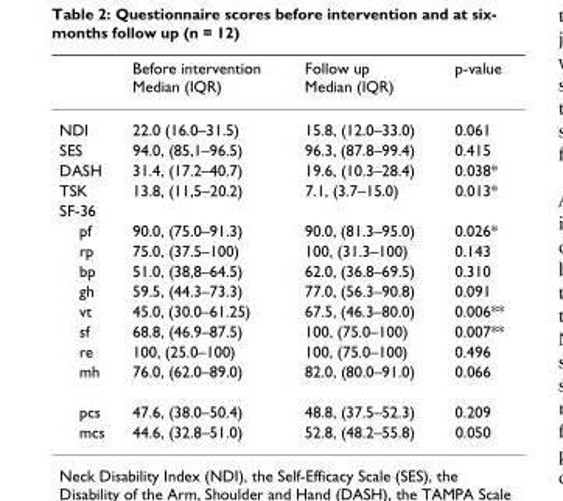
<table><thead><tr><td></td><td>Before intervention Median (IQR)</td><td>Follow up Median (IQR)</td><td>p-value</td></tr></thead><tbody><tr><td>NDI</td><td>22.0 (16.0–31.5)</td><td>15.8, (12.0–33.0)</td><td>0.061</td></tr><tr><td>SES</td><td>94.0, (85,1–96.5)</td><td>96.3, (87.8–99.4)</td><td>0.415</td></tr><tr><td>DASH</td><td>31.4, (17.2–40.7)</td><td>19.6, (10.3–28.4)</td><td>0.038*</td></tr><tr><td>TSK</td><td>13.8, (11,5–20.2)</td><td>7.1, (3.7–15.0)</td><td>0.013*</td></tr><tr><td colspan="4">SF-36</td></tr><tr><td>pf</td><td>90.0, (75.0–91.3)</td><td>90.0, (81.3–95.0)</td><td>0.026*</td></tr><tr><td>rp</td><td>75.0, (37.5–100)</td><td>100, (31.3–100)</td><td>0.143</td></tr><tr><td>bp</td><td>51.0, (38,8–64.5)</td><td>62.0, (36.8–69.5)</td><td>0.310</td></tr><tr><td>gh</td><td>59.5, (44.3–73.3)</td><td>77.0, (56.3–90.8)</td><td>0.091</td></tr><tr><td>vt</td><td>45.0, (30.0–61.25)</td><td>67.5, (46.3–80.0)</td><td>0.006**</td></tr><tr><td>sf</td><td>68.8, (46.9–87.5)</td><td>100, (75.0–100)</td><td>0.007**</td></tr><tr><td>re</td><td>100, (25.0–100)</td><td>100, (75.0–100)</td><td>0.496</td></tr><tr><td>mh</td><td>76.0, (62.0–89.0)</td><td>82.0, (80.0–91.0)</td><td>0.066</td></tr><tr><td>pcs</td><td>47.6, (38.0–50.4)</td><td>48.8, (37.5–52.3)</td><td>0.209</td></tr><tr><td>mcs</td><td>44.6, (32.8–51.0)</td><td>52.8, (48.2–55.8)</td><td>0.050</td></tr></tbody></table>